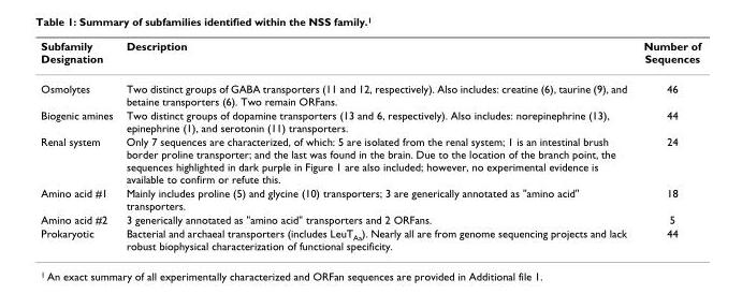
<table><thead><tr><td>Subfamily Designation</td><td>Description</td><td>Number of Sequences</td></tr></thead><tbody><tr><td>Osmolytes</td><td>Two distinct groups of GABA transporters (11 and 12, respectively). Also includes: creatine (6), taurine (9), and betaine transporters (6). Two remain ORFans.</td><td>46</td></tr><tr><td>Biogenic amines</td><td>Two distinct groups of dopamine transporters (13 and 6, respectively). Also includes: norepinephrine (13), epinephrine (1), and serotonin (11) transporters.</td><td>44</td></tr><tr><td>Renal system</td><td>Only 7 sequences are characterized, of which: 5 are isolated from the renal system; 1 is an intestinal brush border proline transporter; and the last was found in the brain. Due to the location of the branch point, the sequences highlighted in dark purple in Figure 1 are also included; however, no experimental evidence is available to confirm or refute this.</td><td>24</td></tr><tr><td>Amino acid #1</td><td>Mainly includes proline (5) and glycine (10) transporters; 3 are generically annotated as &quot;amino acid&quot; transporters.</td><td>18</td></tr><tr><td>Amino acid #2</td><td>3 generically annotated as &quot;amino acid&quot; transporters and 2 ORFans.</td><td>5</td></tr><tr><td>Prokaryotic</td><td>Bacterial and archaeal transporters (includes LeuT<sub>Aa</sub>). Nearly all are from genome sequencing projects and lack robust biophysical characterization of functional specificity.</td><td>44</td></tr></tbody></table>